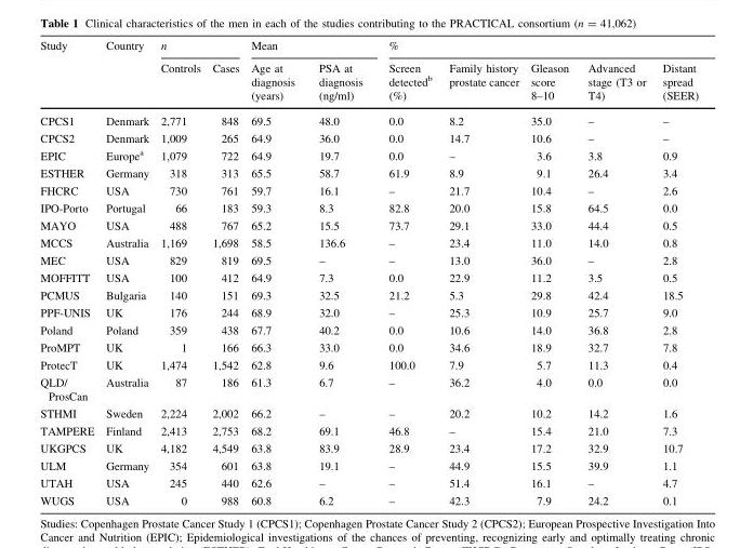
<table><thead><tr><td rowspan="2">Study</td><td rowspan="2">Country</td><td colspan="2">n</td><td colspan="2">Mean</td><td colspan="5">%</td></tr><tr><td>Controls</td><td>Cases</td><td>Age at diagnosis (years)</td><td>PSA at diagnosis (ng/ml)</td><td>Screen detected<sup>b</sup> (%)</td><td>Family history prostate cancer</td><td>Gleason score 8–10</td><td>Advanced stage (T3 or T4)</td><td>Distant spread (SEER)</td></tr></thead><tbody><tr><td>CPCS1</td><td>Denmark</td><td>2,771</td><td>848</td><td>69.5</td><td>48.0</td><td>0.0</td><td>8.2</td><td>35.0</td><td>–</td><td>–</td></tr><tr><td>CPCS2</td><td>Denmark</td><td>1,009</td><td>265</td><td>64.9</td><td>36.0</td><td>0.0</td><td>14.7</td><td>10.6</td><td>–</td><td>–</td></tr><tr><td>EPIC</td><td>Europe<sup>a</sup></td><td>1,079</td><td>722</td><td>64.9</td><td>19.7</td><td>0.0</td><td>–</td><td>3.6</td><td>3.8</td><td>0.9</td></tr><tr><td>ESTHER</td><td>Germany</td><td>318</td><td>313</td><td>65.5</td><td>58.7</td><td>61.9</td><td>8.9</td><td>9.1</td><td>26.4</td><td>3.4</td></tr><tr><td>FHCRC</td><td>USA</td><td>730</td><td>761</td><td>59.7</td><td>16.1</td><td>–</td><td>21.7</td><td>10.4</td><td>–</td><td>2.6</td></tr><tr><td>IPO-Porto</td><td>Portugal</td><td>66</td><td>183</td><td>59.3</td><td>8.3</td><td>82.8</td><td>20.0</td><td>15.8</td><td>64.5</td><td>0.0</td></tr><tr><td>MAYO</td><td>USA</td><td>488</td><td>767</td><td>65.2</td><td>15.5</td><td>73.7</td><td>29.1</td><td>33.0</td><td>44.4</td><td>0.5</td></tr><tr><td>MCCS</td><td>Australia</td><td>1,169</td><td>1,698</td><td>58.5</td><td>136.6</td><td>–</td><td>23.4</td><td>11.0</td><td>14.0</td><td>0.8</td></tr><tr><td>MEC</td><td>USA</td><td>829</td><td>819</td><td>69.5</td><td>–</td><td>–</td><td>13.0</td><td>36.0</td><td>–</td><td>2.8</td></tr><tr><td>MOFFITT</td><td>USA</td><td>100</td><td>412</td><td>64.9</td><td>7.3</td><td>0.0</td><td>22.9</td><td>11.2</td><td>3.5</td><td>0.5</td></tr><tr><td>PCMUS</td><td>Bulgaria</td><td>140</td><td>151</td><td>69.3</td><td>32.5</td><td>21.2</td><td>5.3</td><td>29.8</td><td>42.4</td><td>18.5</td></tr><tr><td>PPF-UNIS</td><td>UK</td><td>176</td><td>244</td><td>68.9</td><td>32.0</td><td>–</td><td>25.3</td><td>10.9</td><td>25.7</td><td>9.0</td></tr><tr><td>Poland</td><td>Poland</td><td>359</td><td>438</td><td>67.7</td><td>40.2</td><td>0.0</td><td>10.6</td><td>14.0</td><td>36.8</td><td>2.8</td></tr><tr><td>ProMPT</td><td>UK</td><td>1</td><td>166</td><td>66.3</td><td>33.0</td><td>0.0</td><td>34.6</td><td>18.9</td><td>32.7</td><td>7.8</td></tr><tr><td>ProtecT</td><td>UK</td><td>1,474</td><td>1,542</td><td>62.8</td><td>9.6</td><td>100.0</td><td>7.9</td><td>5.7</td><td>11.3</td><td>0.4</td></tr><tr><td>QLD/ ProsCan</td><td>Australia</td><td>87</td><td>186</td><td>61.3</td><td>6.7</td><td>–</td><td>36.2</td><td>4.0</td><td>0.0</td><td>0.0</td></tr><tr><td>STHMI</td><td>Sweden</td><td>2,224</td><td>2,002</td><td>66.2</td><td>–</td><td>–</td><td>20.2</td><td>10.2</td><td>14.2</td><td>1.6</td></tr><tr><td>TAMPERE</td><td>Finland</td><td>2,413</td><td>2,753</td><td>68.2</td><td>69.1</td><td>46.8</td><td>–</td><td>15.4</td><td>21.0</td><td>7.3</td></tr><tr><td>UKGPCS</td><td>UK</td><td>4,182</td><td>4,549</td><td>63.8</td><td>83.9</td><td>28.9</td><td>23.4</td><td>17.2</td><td>32.9</td><td>10.7</td></tr><tr><td>ULM</td><td>Germany</td><td>354</td><td>601</td><td>63.8</td><td>19.1</td><td>–</td><td>44.9</td><td>15.5</td><td>39.9</td><td>1.1</td></tr><tr><td>UTAH</td><td>USA</td><td>245</td><td>440</td><td>62.6</td><td>–</td><td>–</td><td>51.4</td><td>16.1</td><td>–</td><td>4.7</td></tr><tr><td>WUGS</td><td>USA</td><td>0</td><td>988</td><td>60.8</td><td>6.2</td><td>–</td><td>42.3</td><td>7.9</td><td>24.2</td><td>0.1</td></tr></tbody></table>